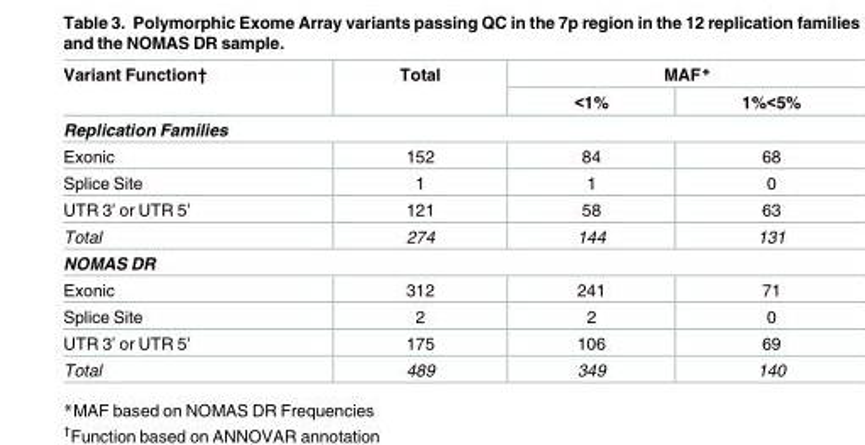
<table><thead><tr><td rowspan="2">Variant Function†</td><td rowspan="2">Total</td><td colspan="2">MAF*</td></tr><tr><td>&lt;1%</td><td>1%&lt;5%</td></tr></thead><tbody><tr><td colspan="4">Replication Families</td></tr><tr><td>Exonic</td><td>152</td><td>84</td><td>68</td></tr><tr><td>Splice Site</td><td>1</td><td>1</td><td>0</td></tr><tr><td>UTR 3’ or UTR 5’</td><td>121</td><td>58</td><td>63</td></tr><tr><td>Total</td><td>274</td><td>144</td><td>131</td></tr><tr><td colspan="4">NOMAS DR</td></tr><tr><td>Exonic</td><td>312</td><td>241</td><td>71</td></tr><tr><td>Splice Site</td><td>2</td><td>2</td><td>0</td></tr><tr><td>UTR 3’ or UTR 5’</td><td>175</td><td>106</td><td>69</td></tr><tr><td>Total</td><td>489</td><td>349</td><td>140</td></tr></tbody></table>